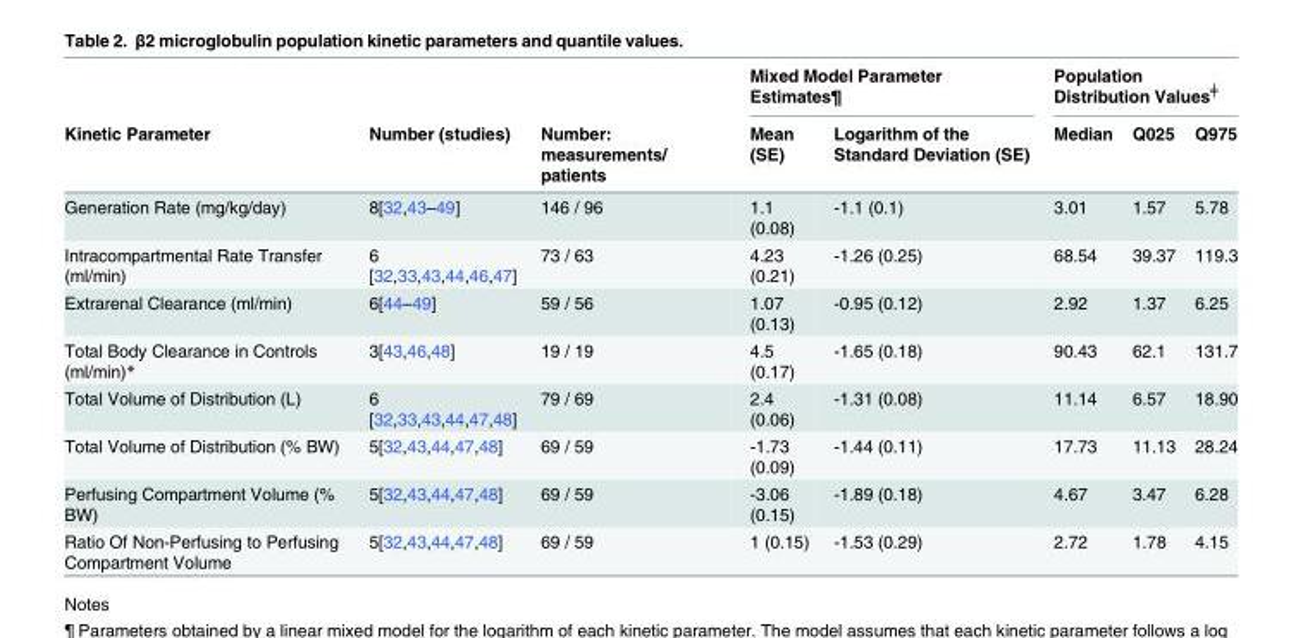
<table><thead><tr><td rowspan="2">Kinetic Parameter</td><td rowspan="2">Number (studies)</td><td rowspan="2">Number: measurements/ patients</td><td colspan="2">Mixed Model Parameter Estimates¶</td><td colspan="3">Population Distribution Values<sup>╪</sup></td></tr><tr><td>Mean (SE)</td><td>Logarithm of the Standard Deviation (SE)</td><td>Median</td><td>Q025</td><td>Q975</td></tr></thead><tbody><tr><td>Generation Rate (mg/kg/day)</td><td>8[32,43–49]</td><td>146 / 96</td><td>1.1 (0.08)</td><td>-1.1 (0.1)</td><td>3.01</td><td>1.57</td><td>5.78</td></tr><tr><td>Intracompartmental Rate Transfer (ml/min)</td><td>6 [32,33,43,44,46,47]</td><td>73 / 63</td><td>4.23 (0.21)</td><td>-1.26 (0.25)</td><td>68.54</td><td>39.37</td><td>119.3</td></tr><tr><td>Extrarenal Clearance (ml/min)</td><td>6[44–49]</td><td>59 / 56</td><td>1.07 (0.13)</td><td>-0.95 (0.12)</td><td>2.92</td><td>1.37</td><td>6.25</td></tr><tr><td>Total Body Clearance in Controls (ml/min)*</td><td>3[43,46,48]</td><td>19 / 19</td><td>4.5 (0.17)</td><td>-1.65 (0.18)</td><td>90.43</td><td>62.1</td><td>131.7</td></tr><tr><td>Total Volume of Distribution (L)</td><td>6 [32,33,43,44,47,48]</td><td>79 / 69</td><td>2.4 (0.06)</td><td>-1.31 (0.08)</td><td>11.14</td><td>6.57</td><td>18.90</td></tr><tr><td>Total Volume of Distribution (% BW)</td><td>5[32,43,44,47,48]</td><td>69 / 59</td><td>-1.73 (0.09)</td><td>-1.44 (0.11)</td><td>17.73</td><td>11.13</td><td>28.24</td></tr><tr><td>Perfusing Compartment Volume (% BW)</td><td>5[32,43,44,47,48]</td><td>69 / 59</td><td>-3.06 (0.15)</td><td>-1.89 (0.18)</td><td>4.67</td><td>3.47</td><td>6.28</td></tr><tr><td>Ratio Of Non-Perfusing to Perfusing Compartment Volume</td><td>5[32,43,44,47,48]</td><td>69 / 59</td><td>1 (0.15)</td><td>-1.53 (0.29)</td><td>2.72</td><td>1.78</td><td>4.15</td></tr></tbody></table>